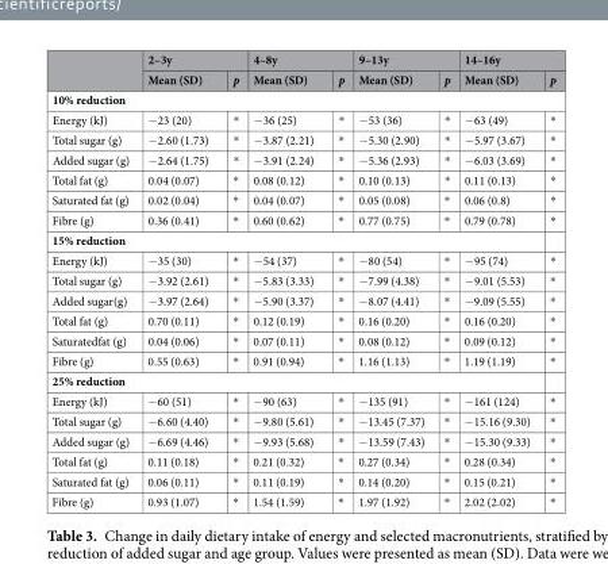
<table><thead><tr><td rowspan="2"></td><td colspan="2">2–3y</td><td colspan="2">4–8y</td><td colspan="2">9–13y</td><td colspan="2">14–16y</td></tr><tr><td>Mean (SD)</td><td>p</td><td>Mean (SD)</td><td>p</td><td>Mean (SD)</td><td>p</td><td>Mean (SD)</td><td>p</td></tr></thead><tbody><tr><td colspan="9">10% reduction</td></tr><tr><td>Energy (kJ)</td><td>−23 (20)</td><td>*</td><td>−36 (25)</td><td>*</td><td>−53 (36)</td><td>*</td><td>−63 (49)</td><td>*</td></tr><tr><td>Total sugar (g)</td><td>−2.60 (1.73)</td><td>*</td><td>−3.87 (2.21)</td><td>*</td><td>−5.30 (2.90)</td><td>*</td><td>−5.97 (3.67)</td><td>*</td></tr><tr><td>Added sugar (g)</td><td>−2.64 (1.75)</td><td>*</td><td>−3.91 (2.24)</td><td>*</td><td>−5.36 (2.93)</td><td>*</td><td>−6.03 (3.69)</td><td>*</td></tr><tr><td>Total fat (g)</td><td>0.04 (0.07)</td><td>*</td><td>0.08 (0.12)</td><td>*</td><td>0.10 (0.13)</td><td>*</td><td>0.11 (0.13)</td><td>*</td></tr><tr><td>Saturated fat (g)</td><td>0.02 (0.04)</td><td>*</td><td>0.04 (0.07)</td><td>*</td><td>0.05 (0.08)</td><td>*</td><td>0.06 (0.8)</td><td>*</td></tr><tr><td>Fibre (g)</td><td>0.36 (0.41)</td><td>*</td><td>0.60 (0.62)</td><td>*</td><td>0.77 (0.75)</td><td>*</td><td>0.79 (0.78)</td><td>*</td></tr><tr><td colspan="9">15% reduction</td></tr><tr><td>Energy (kJ)</td><td>−35 (30)</td><td>*</td><td>−54 (37)</td><td>*</td><td>−80 (54)</td><td>*</td><td>−95 (74)</td><td>*</td></tr><tr><td>Total sugar (g)</td><td>−3.92 (2.61)</td><td>*</td><td>−5.83 (3.33)</td><td>*</td><td>−7.99 (4.38)</td><td>*</td><td>−9.01 (5.53)</td><td>*</td></tr><tr><td>Added sugar(g)</td><td>−3.97 (2.64)</td><td>*</td><td>−5.90 (3.37)</td><td>*</td><td>−8.07 (4.41)</td><td>*</td><td>−9.09 (5.55)</td><td>*</td></tr><tr><td>Total fat (g)</td><td>0.70 (0.11)</td><td>*</td><td>0.12 (0.19)</td><td>*</td><td>0.16 (0.20)</td><td>*</td><td>0.16 (0.20)</td><td>*</td></tr><tr><td>Saturatedfat (g)</td><td>0.04 (0.06)</td><td>*</td><td>0.07 (0.11)</td><td>*</td><td>0.08 (0.12)</td><td>*</td><td>0.09 (0.12)</td><td>*</td></tr><tr><td>Fibre (g)</td><td>0.55 (0.63)</td><td>*</td><td>0.91 (0.94)</td><td>*</td><td>1.16 (1.13)</td><td>*</td><td>1.19 (1.19)</td><td>*</td></tr><tr><td colspan="9">25% reduction</td></tr><tr><td>Energy (kJ)</td><td>−60 (51)</td><td>*</td><td>−90 (63)</td><td>*</td><td>−135 (91)</td><td>*</td><td>−161 (124)</td><td>*</td></tr><tr><td>Total sugar (g)</td><td>−6.60 (4.40)</td><td>*</td><td>−9.80 (5.61)</td><td>*</td><td>−13.45 (7.37)</td><td>*</td><td>−15.16 (9.30)</td><td>*</td></tr><tr><td>Added sugar (g)</td><td>−6.69 (4.46)</td><td>*</td><td>−9.93 (5.68)</td><td>*</td><td>−13.59 (7.43)</td><td>*</td><td>−15.30 (9.33)</td><td>*</td></tr><tr><td>Total fat (g)</td><td>0.11 (0.18)</td><td>*</td><td>0.21 (0.32)</td><td>*</td><td>0.27 (0.34)</td><td>*</td><td>0.28 (0.34)</td><td>*</td></tr><tr><td>Saturated fat (g)</td><td>0.06 (0.11)</td><td>*</td><td>0.11 (0.19)</td><td>*</td><td>0.14 (0.20)</td><td>*</td><td>0.15 (0.21)</td><td>*</td></tr><tr><td>Fibre (g)</td><td>0.93 (1.07)</td><td>*</td><td>1.54 (1.59)</td><td>*</td><td>1.97 (1.92)</td><td>*</td><td>2.02 (2.02)</td><td>*</td></tr></tbody></table>